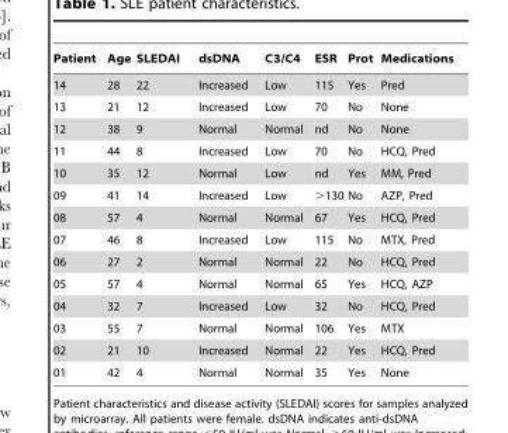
<table><thead><tr><td>Patient</td><td>Age</td><td>SLEDAI</td><td>dsDNA</td><td>C3/C4</td><td>ESR</td><td>Prot</td><td>Medications</td></tr></thead><tbody><tr><td>14</td><td>28</td><td>22</td><td>Increased</td><td>Low</td><td>115</td><td>Yes</td><td>Pred</td></tr><tr><td>13</td><td>21</td><td>12</td><td>Increased</td><td>Low</td><td>70</td><td>No</td><td>None</td></tr><tr><td>12</td><td>38</td><td>9</td><td>Normal</td><td>Normal</td><td>nd</td><td>No</td><td>None</td></tr><tr><td>11</td><td>44</td><td>8</td><td>Increased</td><td>Low</td><td>70</td><td>No</td><td>HCQ, Pred</td></tr><tr><td>10</td><td>35</td><td>12</td><td>Normal</td><td>Low</td><td>nd</td><td>Yes</td><td>MM, Pred</td></tr><tr><td>09</td><td>41</td><td>14</td><td>Increased</td><td>Low</td><td>&gt;130</td><td>No</td><td>AZP, Pred</td></tr><tr><td>08</td><td>57</td><td>4</td><td>Normal</td><td>Normal</td><td>67</td><td>Yes</td><td>HCQ, Pred</td></tr><tr><td>07</td><td>46</td><td>8</td><td>Increased</td><td>Low</td><td>115</td><td>No</td><td>MTX, Pred</td></tr><tr><td>06</td><td>27</td><td>2</td><td>Normal</td><td>Normal</td><td>22</td><td>No</td><td>HCQ, Pred</td></tr><tr><td>05</td><td>57</td><td>4</td><td>Normal</td><td>Normal</td><td>65</td><td>Yes</td><td>HCQ, AZP</td></tr><tr><td>04</td><td>32</td><td>7</td><td>Increased</td><td>Low</td><td>32</td><td>No</td><td>HCQ, Pred</td></tr><tr><td>03</td><td>55</td><td>7</td><td>Normal</td><td>Normal</td><td>106</td><td>Yes</td><td>MTX</td></tr><tr><td>02</td><td>21</td><td>10</td><td>Increased</td><td>Normal</td><td>22</td><td>Yes</td><td>HCQ, Pred</td></tr><tr><td>01</td><td>42</td><td>4</td><td>Normal</td><td>Normal</td><td>35</td><td>Yes</td><td>None</td></tr></tbody></table>